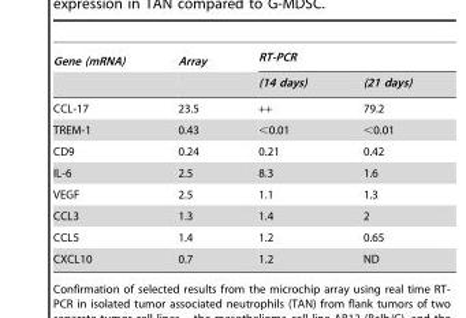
<table><thead><tr><td rowspan="2">Gene (mRNA)</td><td rowspan="2">Array</td><td colspan="2">RT-PCR</td></tr><tr><td>(14 days)</td><td>(21 days)</td></tr></thead><tbody><tr><td>CCL-17</td><td>23.5</td><td>++</td><td>79.2</td></tr><tr><td>TREM-1</td><td>0.43</td><td>&lt;0.01</td><td>&lt;0.01</td></tr><tr><td>CD9</td><td>0.24</td><td>0.21</td><td>0.42</td></tr><tr><td>IL-6</td><td>2.5</td><td>8.3</td><td>1.6</td></tr><tr><td>VEGF</td><td>2.5</td><td>1.1</td><td>1.3</td></tr><tr><td>CCL3</td><td>1.3</td><td>1.4</td><td>2</td></tr><tr><td>CCL5</td><td>1.4</td><td>1.2</td><td>0.65</td></tr><tr><td>CXCL10</td><td>0.7</td><td>1.2</td><td>ND</td></tr></tbody></table>